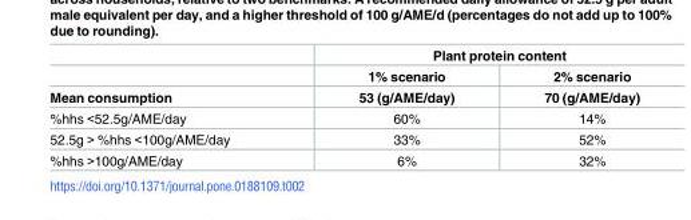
<table><thead><tr><td rowspan="3">Mean consumption</td><td colspan="2">Plant protein content</td></tr><tr><td rowspan="2">1% scenario 53 (g/AME/day)</td><td rowspan="2">2% scenario 70 (g/AME/day)</td></tr><tr></tr></thead><tbody><tr><td>%hhs &lt;52.5g/AME/day</td><td>60%</td><td>14%</td></tr><tr><td>52.5g &gt; %hhs &lt;100g/AME/day</td><td>33%</td><td>52%</td></tr><tr><td>%hhs &gt;100g/AME/day</td><td>6%</td><td>32%</td></tr></tbody></table>